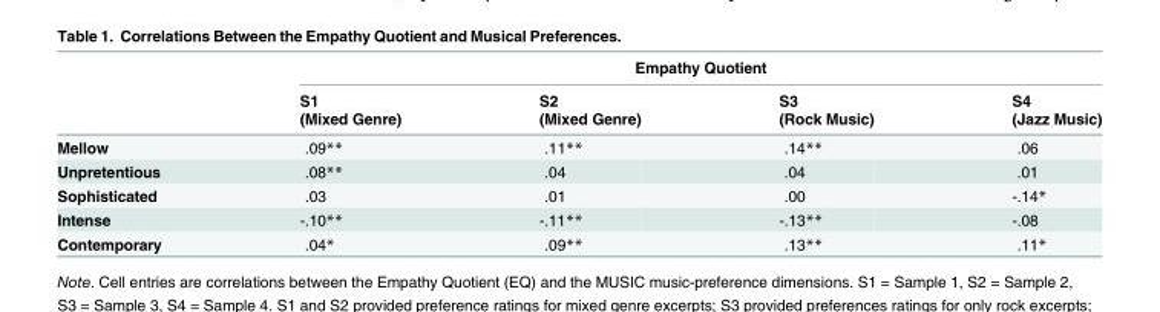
<table><thead><tr><td rowspan="3"></td><td colspan="4">Empathy Quotient</td></tr><tr><td rowspan="2">S1 (Mixed Genre)</td><td rowspan="2">S2 (Mixed Genre)</td><td rowspan="2">S3 (Rock Music)</td><td rowspan="2">S4 (Jazz Music)</td></tr><tr></tr></thead><tbody><tr><td>Mellow</td><td>.09**</td><td>.11**</td><td>.14**</td><td>.06</td></tr><tr><td>Unpretentious</td><td>.08**</td><td>.04</td><td>.04</td><td>.01</td></tr><tr><td>Sophisticated</td><td>.03</td><td>.01</td><td>.00</td><td>-.14*</td></tr><tr><td>Intense</td><td>-.10**</td><td>-.11**</td><td>-.13**</td><td>-.08</td></tr><tr><td>Contemporary</td><td>.04*</td><td>.09**</td><td>.13**</td><td>.11*</td></tr></tbody></table>